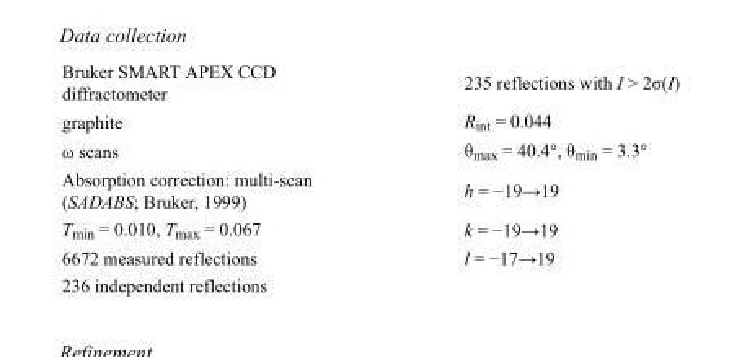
<table><tbody><tr><td>Bruker SMART APEX CCD diffractometer</td><td>235 reflections with I &gt; 2σ(I)</td></tr><tr><td>graphite</td><td>R<sub>int</sub> = 0.044</td></tr><tr><td>ω scans</td><td>θ<sub>max</sub> = 40.4°, θ<sub>min</sub> = 3.3°</td></tr><tr><td>Absorption correction: multi-scan (SADABS; Bruker, 1999)</td><td>h = −19→19</td></tr><tr><td>T<sub>min</sub> = 0.010, T<sub>max</sub> = 0.067</td><td>k = −19→19</td></tr><tr><td>6672 measured reflections</td><td>l = −17→19</td></tr><tr><td>236 independent reflections</td><td></td></tr></tbody></table>